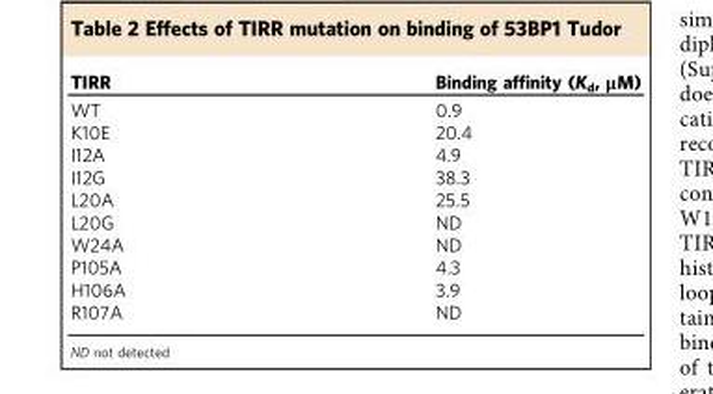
<table><thead><tr><td>TIRR</td><td>Binding affinity (K<sub>d</sub>, μM)</td></tr></thead><tbody><tr><td>WT</td><td>0.9</td></tr><tr><td>K10E</td><td>20.4</td></tr><tr><td>I12A</td><td>4.9</td></tr><tr><td>I12G</td><td>38.3</td></tr><tr><td>L20A</td><td>25.5</td></tr><tr><td>L20G</td><td>ND</td></tr><tr><td>W24A</td><td>ND</td></tr><tr><td>P105A</td><td>4.3</td></tr><tr><td>H106A</td><td>3.9</td></tr><tr><td>R107A</td><td>ND</td></tr></tbody></table>